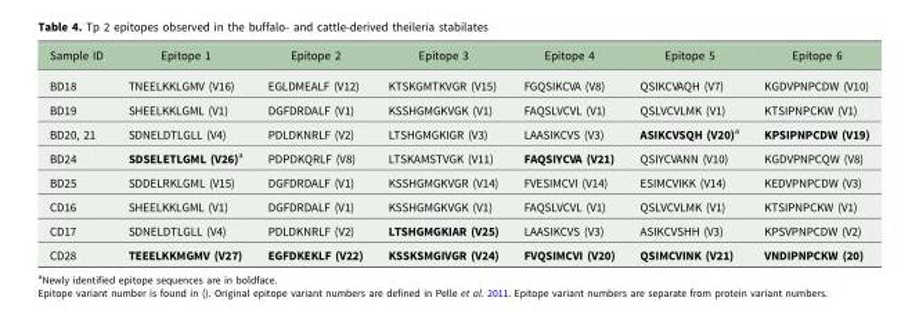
<table><thead><tr><td>Sample ID</td><td>Epitope 1</td><td>Epitope 2</td><td>Epitope 3</td><td>Epitope 4</td><td>Epitope 5</td><td>Epitope 6</td></tr></thead><tbody><tr><td>BD18</td><td>TNEELKKLGMV (V16)</td><td>EGLDMEALF (V12)</td><td>KTSKGMTKVGR (V15)</td><td>FGQSIKCVA (V8)</td><td>QSIKCVAQH (V7)</td><td>KGDVPNPCDW (V10)</td></tr><tr><td>BD19</td><td>SHEELKKLGML (V1)</td><td>DGFDRDALF (V1)</td><td>KSSHGMGKVGK (V1)</td><td>FAQSLVCVL (V1)</td><td>QSLVCVLMK (V1)</td><td>KTSIPNPCKW (V1)</td></tr><tr><td>BD20, 21</td><td>SDNELDTLGLL (V4)</td><td>PDLDKNRLF (V2)</td><td>LTSHGMGKIGR (V3)</td><td>LAASIKCVS (V3)</td><td>ASIKCVSQH (V20)<sup>a</sup></td><td>KPSIPNPCDW (V19)</td></tr><tr><td>BD24</td><td>SDSELETLGML (V26)<sup>a</sup></td><td>PDPDKQRLF (V8)</td><td>LTSKAMSTVGK (V11)</td><td>FAQSIYCVA (V21)</td><td>QSIYCVANN (V10)</td><td>KGDVPNPCQW (V8)</td></tr><tr><td>BD25</td><td>SDDELRKLGML (V15)</td><td>DGFDRDALF (V1)</td><td>KSSHGMGKVGR (V14)</td><td>FVESIMCVI (V14)</td><td>ESIMCVIKK (V14)</td><td>KEDVPNPCDW (V3)</td></tr><tr><td>CD16</td><td>SHEELKKLGML (V1)</td><td>DGFDRDALF (V1)</td><td>KSSHGMGKVGK (V1)</td><td>FAQSLVCVL (V1)</td><td>QSLVCVLMK (V1)</td><td>KTSIPNPCKW (V1)</td></tr><tr><td>CD17</td><td>SDNELDTLGLL (V4)</td><td>PDLDKNRLF (V2)</td><td>LTSHGMGKIAR (V25)</td><td>LAASIKCVS (V3)</td><td>ASIKCVSHH (V3)</td><td>KPSVPNPCDW (V2)</td></tr><tr><td>CD28</td><td>TEEELKKMGMV (V27)</td><td>EGFDKEKLF (V22)</td><td>KSSKSMGIVGR (V24)</td><td>FVQSIMCVI (V20)</td><td>QSIMCVINK (V21)</td><td>VNDIPNPCKW (20)</td></tr></tbody></table>